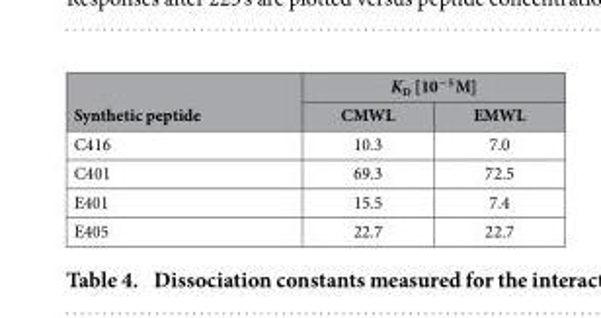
<table><thead><tr><td rowspan="2">Synthetic peptide</td><td colspan="2">K<sub>D</sub> [10<sup>−5</sup> M]</td></tr><tr><td>CMWL</td><td>EMWL</td></tr></thead><tbody><tr><td>C416</td><td>10.3</td><td>7.0</td></tr><tr><td>C401</td><td>69.3</td><td>72.5</td></tr><tr><td>E401</td><td>15.5</td><td>7.4</td></tr><tr><td>E405</td><td>22.7</td><td>22.7</td></tr></tbody></table>